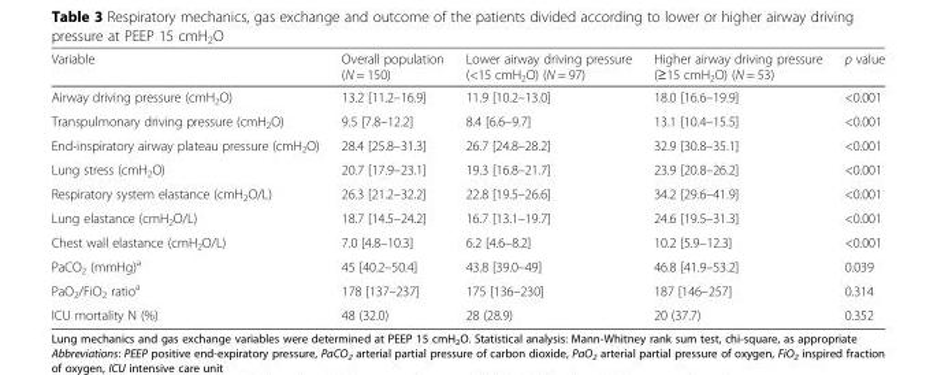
<table><thead><tr><td>Variable</td><td>Overall population (N = 150)</td><td>Lower airway driving pressure (&lt;15 cmH<sub>2</sub>O) (N = 97)</td><td>Higher airway driving pressure (≥15 cmH<sub>2</sub>O) (N = 53)</td><td>p value</td></tr></thead><tbody><tr><td>Airway driving pressure (cmH<sub>2</sub>O)</td><td>13.2 [11.2–16.9]</td><td>11.9 [10.2–13.0]</td><td>18.0 [16.6–19.9]</td><td>&lt;0.001</td></tr><tr><td>Transpulmonary driving pressure (cmH<sub>2</sub>O)</td><td>9.5 [7.8–12.2]</td><td>8.4 [6.6–9.7]</td><td>13.1 [10.4–15.5]</td><td>&lt;0.001</td></tr><tr><td>End-inspiratory airway plateau pressure (cmH<sub>2</sub>O)</td><td>28.4 [25.8–31.3]</td><td>26.7 [24.8–28.2]</td><td>32.9 [30.8–35.1]</td><td>&lt;0.001</td></tr><tr><td>Lung stress (cmH<sub>2</sub>O)</td><td>20.7 [17.9–23.1]</td><td>19.3 [16.8–21.7]</td><td>23.9 [20.8–26.2]</td><td>&lt;0.001</td></tr><tr><td>Respiratory system elastance (cmH<sub>2</sub>O/L)</td><td>26.3 [21.2–32.2]</td><td>22.8 [19.5–26.6]</td><td>34.2 [29.6–41.9]</td><td>&lt;0.001</td></tr><tr><td>Lung elastance (cmH<sub>2</sub>O/L)</td><td>18.7 [14.5–24.2]</td><td>16.7 [13.1–19.7]</td><td>24.6 [19.5–31.3]</td><td>&lt;0.001</td></tr><tr><td>Chest wall elastance (cmH<sub>2</sub>O/L)</td><td>7.0 [4.8–10.3]</td><td>6.2 [4.6–8.2]</td><td>10.2 [5.9–12.3]</td><td>&lt;0.001</td></tr><tr><td>PaCO<sub>2</sub> (mmHg)<sup>a</sup></td><td>45 [40.2–50.4]</td><td>43.8 [39.0–49]</td><td>46.8 [41.9–53.2]</td><td>0.039</td></tr><tr><td>PaO<sub>2</sub>/FiO<sub>2</sub> ratio<sup>a</sup></td><td>178 [137–237]</td><td>175 [136–230]</td><td>187 [146–257]</td><td>0.314</td></tr><tr><td>ICU mortality N (%)</td><td>48 (32.0)</td><td>28 (28.9)</td><td>20 (37.7)</td><td>0.352</td></tr></tbody></table>